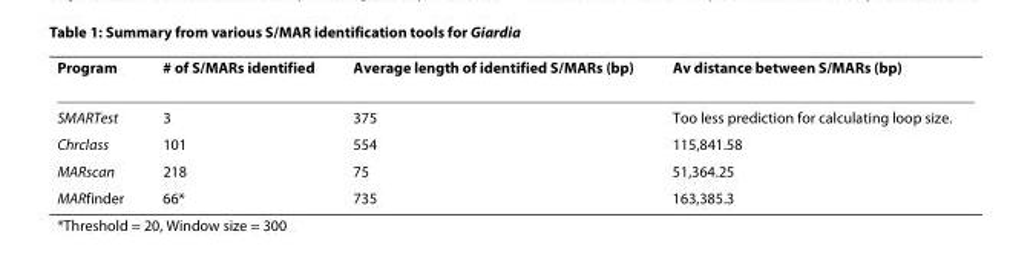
<table><thead><tr><td>Program</td><td># of S/MARs identified</td><td>Average length of identified S/MARs (bp)</td><td>Av distance between S/MARs (bp)</td></tr></thead><tbody><tr><td>SMARTest</td><td>3</td><td>375</td><td>Too less prediction for calculating loop size.</td></tr><tr><td>Chrclass</td><td>101</td><td>554</td><td>115,841.58</td></tr><tr><td>MARscan</td><td>218</td><td>75</td><td>51,364.25</td></tr><tr><td>MARfinder</td><td>66*</td><td>735</td><td>163,385.3</td></tr></tbody></table>